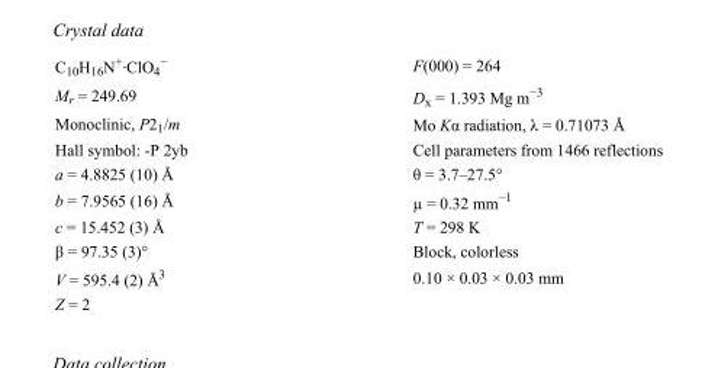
<table><tbody><tr><td>C<sub>10</sub>H<sub>16</sub>N<sup>+</sup>·ClO<sub>4</sub> <sup>−</sup></td><td>F(000) = 264</td></tr><tr><td>M<sub>r</sub> = 249.69</td><td>D<sub>x</sub> = 1.393 Mg m<sup>−3</sup></td></tr><tr><td>Monoclinic, P2<sub>1</sub>/m</td><td>Mo Kα radiation, λ = 0.71073 Å</td></tr><tr><td>Hall symbol: -P 2yb</td><td>Cell parameters from 1466 reflections</td></tr><tr><td>a = 4.8825 (10) Å</td><td>θ = 3.7–27.5°</td></tr><tr><td>b = 7.9565 (16) Å</td><td>µ = 0.32 mm<sup>−1</sup></td></tr><tr><td>c = 15.452 (3) Å</td><td>T = 298 K</td></tr><tr><td>β = 97.35 (3)°</td><td>Block, colorless</td></tr><tr><td>V = 595.4 (2) Å<sup>3</sup></td><td>0.10 × 0.03 × 0.03 mm</td></tr><tr><td>Z = 2</td><td></td></tr></tbody></table>